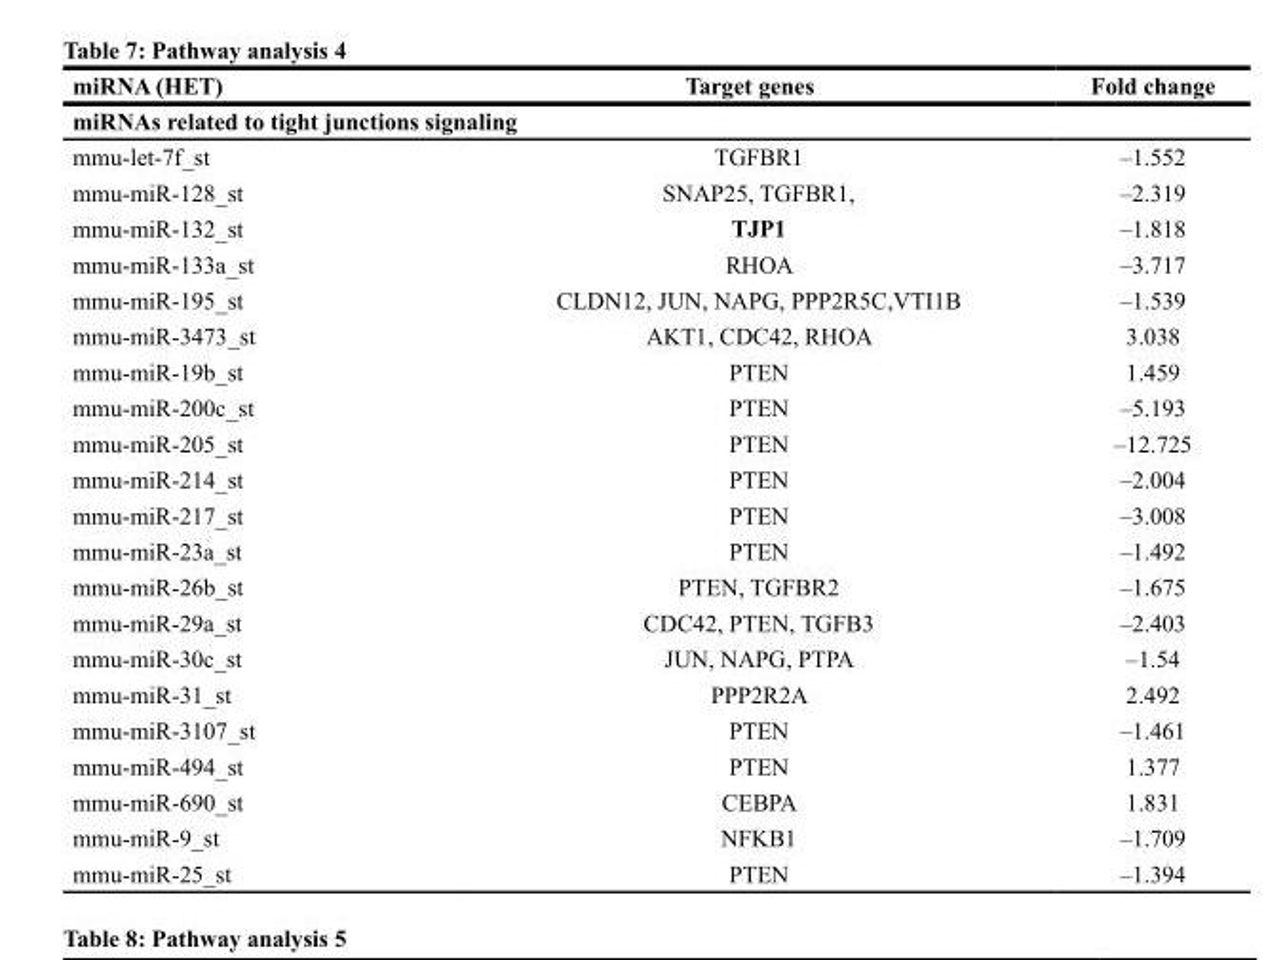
<table><thead><tr><td>miRNA (HET)</td><td>Target genes</td><td>Fold change</td></tr></thead><tbody><tr><td colspan="3">miRNAs related to tight junctions signaling</td></tr><tr><td>mmu-let-7f_st</td><td>TGFBR1</td><td>–1.552</td></tr><tr><td>mmu-miR-128_st</td><td>SNAP25, TGFBR1,</td><td>–2.319</td></tr><tr><td>mmu-miR-132_st</td><td>TJP1</td><td>–1.818</td></tr><tr><td>mmu-miR-133a_st</td><td>RHOA</td><td>–3.717</td></tr><tr><td>mmu-miR-195_st</td><td>CLDN12, JUN, NAPG, PPP2R5C,VTI1B</td><td>–1.539</td></tr><tr><td>mmu-miR-3473_st</td><td>AKT1, CDC42, RHOA</td><td>3.038</td></tr><tr><td>mmu-miR-19b_st</td><td>PTEN</td><td>1.459</td></tr><tr><td>mmu-miR-200c_st</td><td>PTEN</td><td>–5.193</td></tr><tr><td>mmu-miR-205_st</td><td>PTEN</td><td>–12.725</td></tr><tr><td>mmu-miR-214_st</td><td>PTEN</td><td>–2.004</td></tr><tr><td>mmu-miR-217_st</td><td>PTEN</td><td>–3.008</td></tr><tr><td>mmu-miR-23a_st</td><td>PTEN</td><td>–1.492</td></tr><tr><td>mmu-miR-26b_st</td><td>PTEN, TGFBR2</td><td>–1.675</td></tr><tr><td>mmu-miR-29a_st</td><td>CDC42, PTEN, TGFB3</td><td>–2.403</td></tr><tr><td>mmu-miR-30c_st</td><td>JUN, NAPG, PTPA</td><td>–1.54</td></tr><tr><td>mmu-miR-31_st</td><td>PPP2R2A</td><td>2.492</td></tr><tr><td>mmu-miR-3107_st</td><td>PTEN</td><td>–1.461</td></tr><tr><td>mmu-miR-494_st</td><td>PTEN</td><td>1.377</td></tr><tr><td>mmu-miR-690_st</td><td>CEBPA</td><td>1.831</td></tr><tr><td>mmu-miR-9_st</td><td>NFKB1</td><td>–1.709</td></tr><tr><td>mmu-miR-25_st</td><td>PTEN</td><td>–1.394</td></tr></tbody></table>